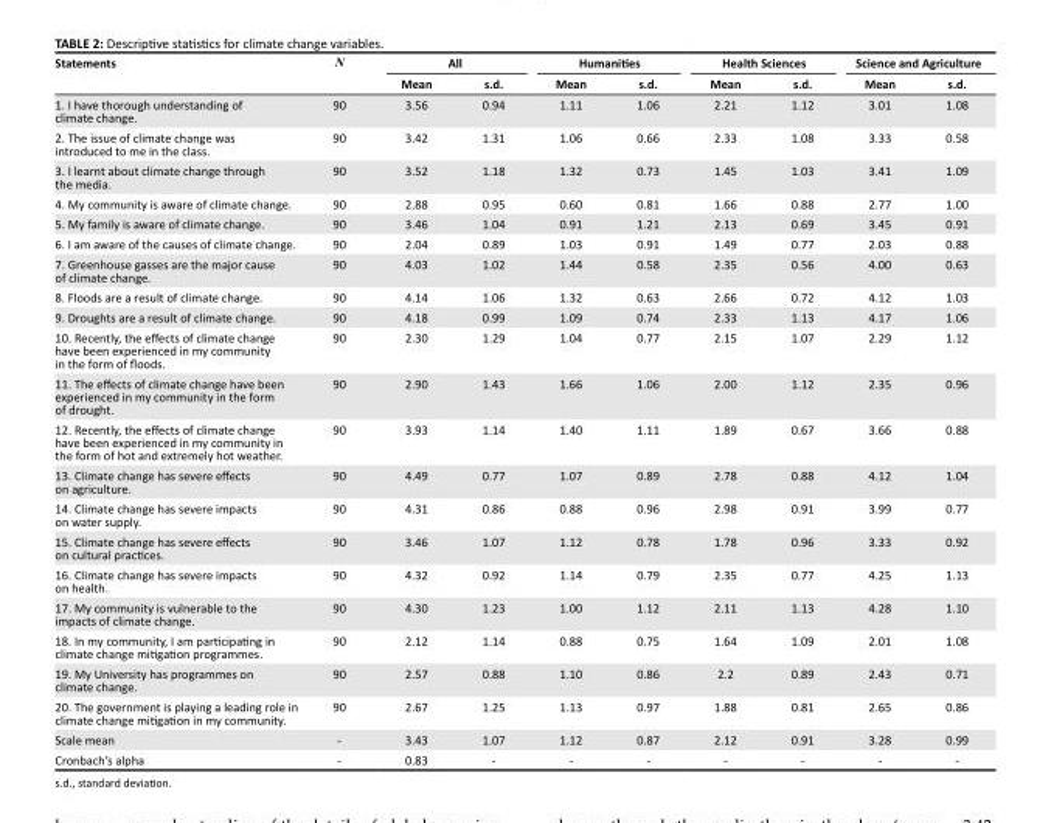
<table><thead><tr><td rowspan="2">Statements</td><td rowspan="2">N</td><td colspan="2">All</td><td colspan="2">Humanities</td><td colspan="2">Health Sciences</td><td colspan="2">Science and Agriculture</td></tr><tr><td>Mean</td><td>s.d.</td><td>Mean</td><td>s.d.</td><td>Mean</td><td>s.d.</td><td>Mean</td><td>s.d.</td></tr></thead><tbody><tr><td>1. I have thorough understanding of climate change.</td><td>90</td><td>3.56</td><td>0.94</td><td>1.11</td><td>1.06</td><td>2.21</td><td>1.12</td><td>3.01</td><td>1.08</td></tr><tr><td>2. The issue of climate change was introduced to me in the class.</td><td>90</td><td>3.42</td><td>1.31</td><td>1.06</td><td>0.66</td><td>2.33</td><td>1.08</td><td>3.33</td><td>0.58</td></tr><tr><td>3. I learnt about climate change through the media.</td><td>90</td><td>3.52</td><td>1.18</td><td>1.32</td><td>0.73</td><td>1.45</td><td>1.03</td><td>3.41</td><td>1.09</td></tr><tr><td>4. My community is aware of climate change.</td><td>90</td><td>2.88</td><td>0.95</td><td>0.60</td><td>0.81</td><td>1.66</td><td>0.88</td><td>2.77</td><td>1.00</td></tr><tr><td>5. My family is aware of climate change.</td><td>90</td><td>3.46</td><td>1.04</td><td>0.91</td><td>1.21</td><td>2.13</td><td>0.69</td><td>3.45</td><td>0.91</td></tr><tr><td>6. I am aware of the causes of climate change.</td><td>90</td><td>2.04</td><td>0.89</td><td>1.03</td><td>0.91</td><td>1.49</td><td>0.77</td><td>2.03</td><td>0.88</td></tr><tr><td>7. Greenhouse gasses are the major cause of climate change.</td><td>90</td><td>4.03</td><td>1.02</td><td>1.44</td><td>0.58</td><td>2.35</td><td>0.56</td><td>4.00</td><td>0.63</td></tr><tr><td>8. Floods are a result of climate change.</td><td>90</td><td>4.14</td><td>1.06</td><td>1.32</td><td>0.63</td><td>2.66</td><td>0.72</td><td>4.12</td><td>1.03</td></tr><tr><td>9. Droughts are a result of climate change.</td><td>90</td><td>4.18</td><td>0.99</td><td>1.09</td><td>0.74</td><td>2.33</td><td>1.13</td><td>4.17</td><td>1.06</td></tr><tr><td>10. Recently, the effects of climate change have been experienced in my community in the form of floods.</td><td>90</td><td>2.30</td><td>1.29</td><td>1.04</td><td>0.77</td><td>2.15</td><td>1.07</td><td>2.29</td><td>1.12</td></tr><tr><td>11. The effects of climate change have been experienced in my community in the form of drought.</td><td>90</td><td>2.90</td><td>1.43</td><td>1.66</td><td>1.06</td><td>2.00</td><td>1.12</td><td>2.35</td><td>0.96</td></tr><tr><td>12. Recently, the effects of climate change have been experienced in my community in the form of hot and extremely hot weather.</td><td>90</td><td>3.93</td><td>1.14</td><td>1.40</td><td>1.11</td><td>1.89</td><td>0.67</td><td>3.66</td><td>0.88</td></tr><tr><td>13. Climate change has severe effects on agriculture.</td><td>90</td><td>4.49</td><td>0.77</td><td>1.07</td><td>0.89</td><td>2.78</td><td>0.88</td><td>4.12</td><td>1.04</td></tr><tr><td>14. Climate change has severe impacts on water supply.</td><td>90</td><td>4.31</td><td>0.86</td><td>0.88</td><td>0.96</td><td>2.98</td><td>0.91</td><td>3.99</td><td>0.77</td></tr><tr><td>15. Climate change has severe effects on cultural practices.</td><td>90</td><td>3.46</td><td>1.07</td><td>1.12</td><td>0.78</td><td>1.78</td><td>0.96</td><td>3.33</td><td>0.92</td></tr><tr><td>16. Climate change has severe impacts on health.</td><td>90</td><td>4.32</td><td>0.92</td><td>1.14</td><td>0.79</td><td>2.35</td><td>0.77</td><td>4.25</td><td>1.13</td></tr><tr><td>17. My community is vulnerable to the impacts of climate change.</td><td>90</td><td>4.30</td><td>1.23</td><td>1.00</td><td>1.12</td><td>2.11</td><td>1.13</td><td>4.28</td><td>1.10</td></tr><tr><td>18. In my community, I am participating in climate change mitigation programmes.</td><td>90</td><td>2.12</td><td>1.14</td><td>0.88</td><td>0.75</td><td>1.64</td><td>1.09</td><td>2.01</td><td>1.08</td></tr><tr><td>19. My University has programmes on climate change.</td><td>90</td><td>2.57</td><td>0.88</td><td>1.10</td><td>0.86</td><td>2.2</td><td>0.89</td><td>2.43</td><td>0.71</td></tr><tr><td>20. The government is playing a leading role in climate change mitigation in my community.</td><td>90</td><td>2.67</td><td>1.25</td><td>1.13</td><td>0.97</td><td>1.88</td><td>0.81</td><td>2.65</td><td>0.86</td></tr><tr><td>Scale mean</td><td>-</td><td>3.43</td><td>1.07</td><td>1.12</td><td>0.87</td><td>2.12</td><td>0.91</td><td>3.28</td><td>0.99</td></tr><tr><td>Cronbach’s alpha</td><td>-</td><td>0.83</td><td>-</td><td>-</td><td>-</td><td>-</td><td>-</td><td>-</td><td>-</td></tr></tbody></table>